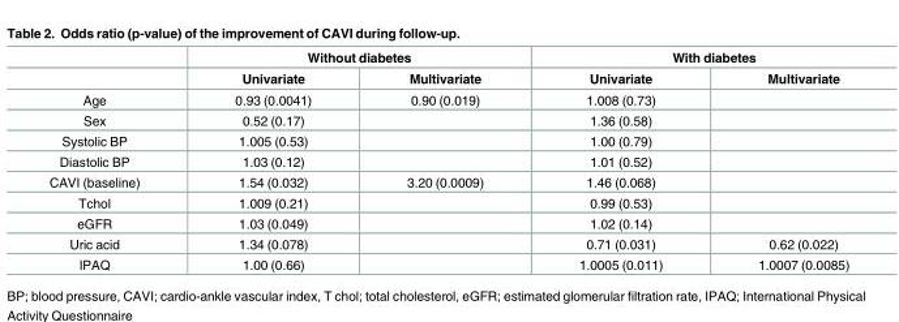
<table><thead><tr><td rowspan="2"></td><td colspan="2">Without diabetes</td><td colspan="2">With diabetes</td></tr><tr><td>Univariate</td><td>Multivariate</td><td>Univariate</td><td>Multivariate</td></tr></thead><tbody><tr><td>Age</td><td>0.93 (0.0041)</td><td>0.90 (0.019)</td><td>1.008 (0.73)</td><td></td></tr><tr><td>Sex</td><td>0.52 (0.17)</td><td></td><td>1.36 (0.58)</td><td></td></tr><tr><td>Systolic BP</td><td>1.005 (0.53)</td><td></td><td>1.00 (0.79)</td><td></td></tr><tr><td>Diastolic BP</td><td>1.03 (0.12)</td><td></td><td>1.01 (0.52)</td><td></td></tr><tr><td>CAVI (baseline)</td><td>1.54 (0.032)</td><td>3.20 (0.0009)</td><td>1.46 (0.068)</td><td></td></tr><tr><td>Tchol</td><td>1.009 (0.21)</td><td></td><td>0.99 (0.53)</td><td></td></tr><tr><td>eGFR</td><td>1.03 (0.049)</td><td></td><td>1.02 (0.14)</td><td></td></tr><tr><td>Uric acid</td><td>1.34 (0.078)</td><td></td><td>0.71 (0.031)</td><td>0.62 (0.022)</td></tr><tr><td>IPAQ</td><td>1.00 (0.66)</td><td></td><td>1.0005 (0.011)</td><td>1.0007 (0.0085)</td></tr></tbody></table>